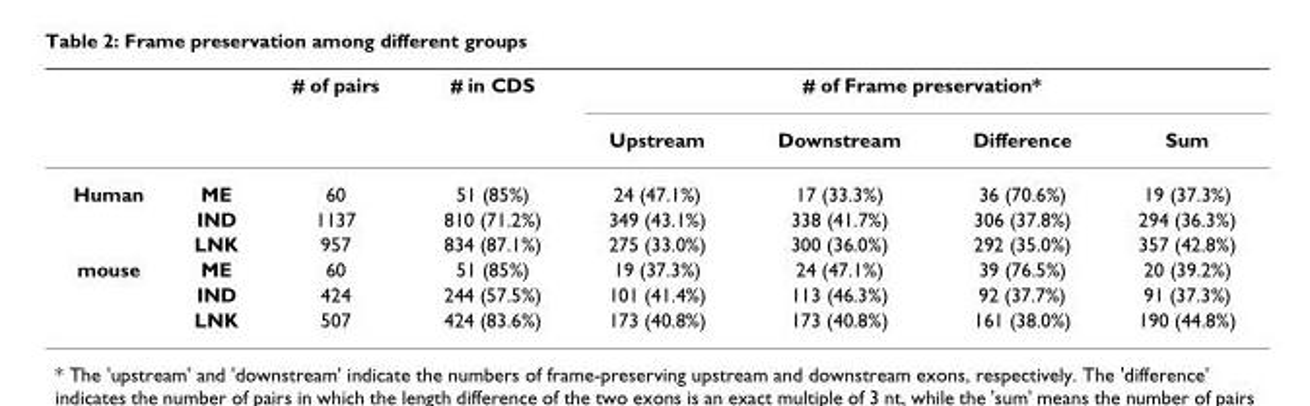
<table><thead><tr><td rowspan="2"></td><td rowspan="2"></td><td rowspan="2"># of pairs</td><td rowspan="2"># in CDS</td><td colspan="4"># of Frame preservation*</td></tr><tr><td>Upstream</td><td>Downstream</td><td>Difference</td><td>Sum</td></tr></thead><tbody><tr><td rowspan="3">Human</td><td>ME</td><td>60</td><td>51 (85%)</td><td>24 (47.1%)</td><td>17 (33.3%)</td><td>36 (70.6%)</td><td>19 (37.3%)</td></tr><tr><td>IND</td><td>1137</td><td>810 (71.2%)</td><td>349 (43.1%)</td><td>338 (41.7%)</td><td>306 (37.8%)</td><td>294 (36.3%)</td></tr><tr><td>LNK</td><td>957</td><td>834 (87.1%)</td><td>275 (33.0%)</td><td>300 (36.0%)</td><td>292 (35.0%)</td><td>357 (42.8%)</td></tr><tr><td rowspan="3">mouse</td><td>ME</td><td>60</td><td>51 (85%)</td><td>19 (37.3%)</td><td>24 (47.1%)</td><td>39 (76.5%)</td><td>20 (39.2%)</td></tr><tr><td>IND</td><td>424</td><td>244 (57.5%)</td><td>101 (41.4%)</td><td>113 (46.3%)</td><td>92 (37.7%)</td><td>91 (37.3%)</td></tr><tr><td>LNK</td><td>507</td><td>424 (83.6%)</td><td>173 (40.8%)</td><td>173 (40.8%)</td><td>161 (38.0%)</td><td>190 (44.8%)</td></tr></tbody></table>